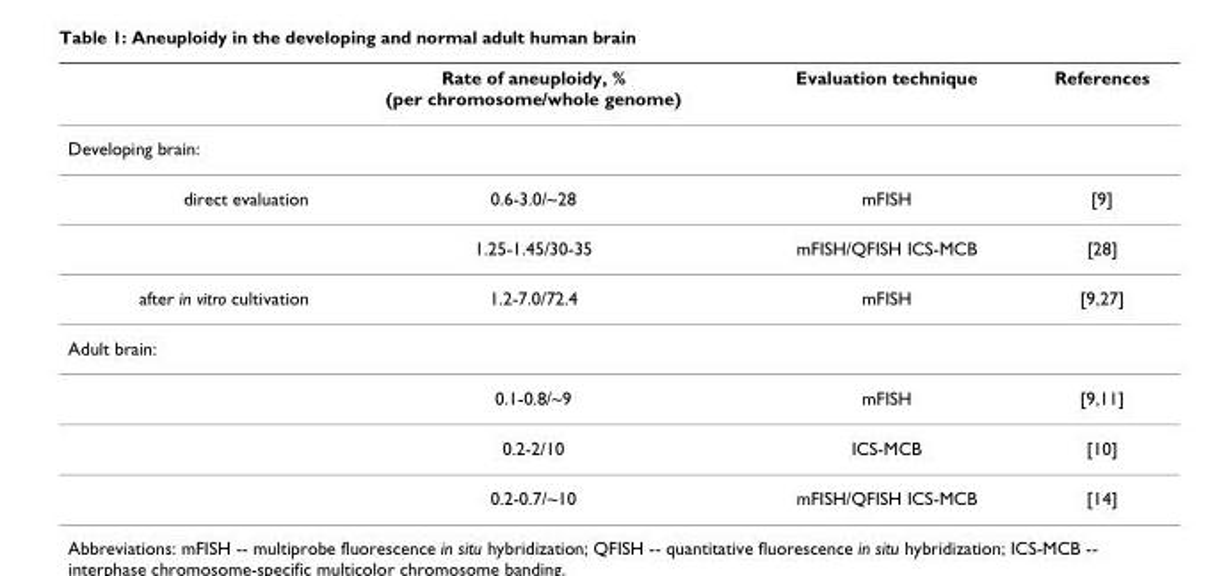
<table><thead><tr><td></td><td>Rate of aneuploidy, % (per chromosome/whole genome)</td><td>Evaluation technique</td><td>References</td></tr></thead><tbody><tr><td colspan="4">Developing brain:</td></tr><tr><td rowspan="2">direct evaluation</td><td>0.6-3.0/~28</td><td>mFISH</td><td>[9]</td></tr><tr><td>1.25-1.45/30-35</td><td>mFISH/QFISH ICS-MCB</td><td>[28]</td></tr><tr><td>after in vitro cultivation</td><td>1.2-7.0/72.4</td><td>mFISH</td><td>[9,27]</td></tr><tr><td colspan="4">Adult brain:</td></tr><tr><td></td><td>0.1-0.8/~9</td><td>mFISH</td><td>[9,11]</td></tr><tr><td></td><td>0.2-2/10</td><td>ICS-MCB</td><td>[10]</td></tr><tr><td></td><td>0.2-0.7/~10</td><td>mFISH/QFISH ICS-MCB</td><td>[14]</td></tr></tbody></table>